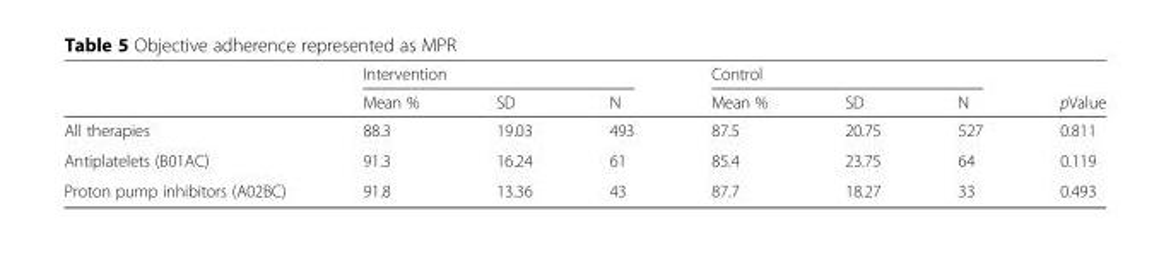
<table><thead><tr><td rowspan="2"></td><td colspan="3">Intervention</td><td colspan="3">Control</td><td rowspan="2">pValue</td></tr><tr><td>Mean %</td><td>SD</td><td>N</td><td>Mean %</td><td>SD</td><td>N</td></tr></thead><tbody><tr><td>All therapies</td><td>88.3</td><td>19.03</td><td>493</td><td>87.5</td><td>20.75</td><td>527</td><td>0.811</td></tr><tr><td>Antiplatelets (B01AC)</td><td>91.3</td><td>16.24</td><td>61</td><td>85.4</td><td>23.75</td><td>64</td><td>0.119</td></tr><tr><td>Proton pump inhibitors (A02BC)</td><td>91.8</td><td>13.36</td><td>43</td><td>87.7</td><td>18.27</td><td>33</td><td>0.493</td></tr></tbody></table>